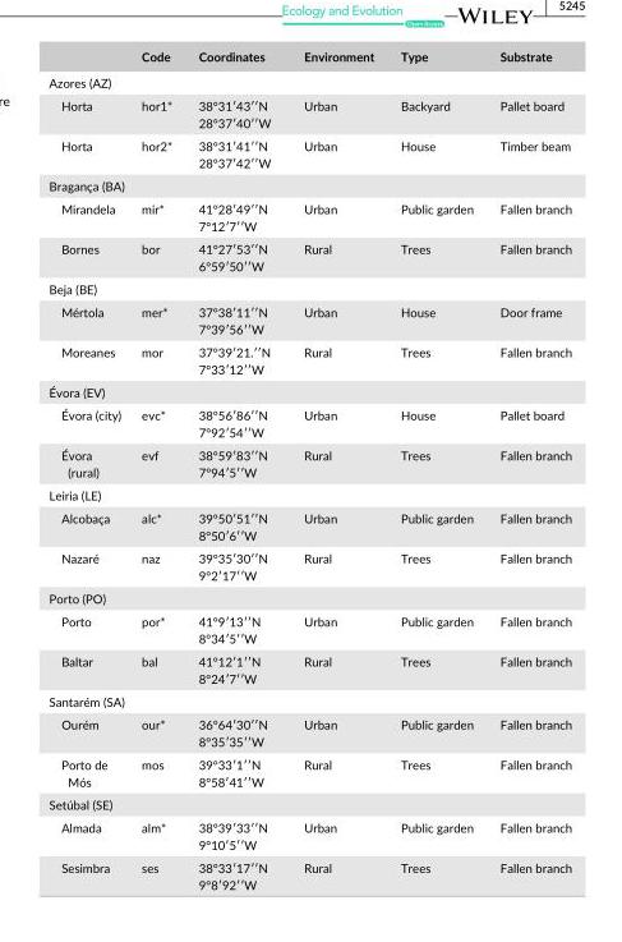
<table><thead><tr><td></td><td>Code</td><td>Coordinates</td><td>Environment</td><td>Type</td><td>Substrate</td></tr></thead><tbody><tr><td colspan="6">Azores (AZ)</td></tr><tr><td>Horta</td><td>hor1*</td><td>38°31′43′′N 28°37′40′′W</td><td>Urban</td><td>Backyard</td><td>Pallet board</td></tr><tr><td>Horta</td><td>hor2*</td><td>38°31′41′′N 28°37′42′′W</td><td>Urban</td><td>House</td><td>Timber beam</td></tr><tr><td colspan="6">Bragança (BA)</td></tr><tr><td>Mirandela</td><td>mir*</td><td>41°28′49′′N 7°12′7′′W</td><td>Urban</td><td>Public garden</td><td>Fallen branch</td></tr><tr><td>Bornes</td><td>bor</td><td>41°27′53′′N 6°59′50′′W</td><td>Rural</td><td>Trees</td><td>Fallen branch</td></tr><tr><td colspan="6">Beja (BE)</td></tr><tr><td>Mértola</td><td>mer*</td><td>37°38′11′′N 7°39′56′′W</td><td>Urban</td><td>House</td><td>Door frame</td></tr><tr><td>Moreanes</td><td>mor</td><td>37°39′21.′′N 7°33′12′′W</td><td>Rural</td><td>Trees</td><td>Fallen branch</td></tr><tr><td colspan="6">Évora (EV)</td></tr><tr><td>Évora (city)</td><td>evc*</td><td>38°56′86′′N 7°92′54′′W</td><td>Urban</td><td>House</td><td>Pallet board</td></tr><tr><td>Évora (rural)</td><td>evf</td><td>38°59′83′′N 7°94′5′′W</td><td>Rural</td><td>Trees</td><td>Fallen branch</td></tr><tr><td colspan="6">Leiria (LE)</td></tr><tr><td>Alcobaça</td><td>alc*</td><td>39°50′51′′N 8°50′6′′W</td><td>Urban</td><td>Public garden</td><td>Fallen branch</td></tr><tr><td>Nazaré</td><td>naz</td><td>39°35′30′′N 9°2′17′′W</td><td>Rural</td><td>Trees</td><td>Fallen branch</td></tr><tr><td colspan="6">Porto (PO)</td></tr><tr><td>Porto</td><td>por*</td><td>41°9′13′′N 8°34′5′′W</td><td>Urban</td><td>Public garden</td><td>Fallen branch</td></tr><tr><td>Baltar</td><td>bal</td><td>41°12′1′′N 8°24′7′′W</td><td>Rural</td><td>Trees</td><td>Fallen branch</td></tr><tr><td colspan="6">Santarém (SA)</td></tr><tr><td>Ourém</td><td>our*</td><td>36°64′30′′N 8°35′35′′W</td><td>Urban</td><td>Public garden</td><td>Fallen branch</td></tr><tr><td>Porto de Mós</td><td>mos</td><td>39°33′1′′N 8°58′41′′W</td><td>Rural</td><td>Trees</td><td>Fallen branch</td></tr><tr><td colspan="6">Setúbal (SE)</td></tr><tr><td>Almada</td><td>alm*</td><td>38°39′33′′N 9°10′5′′W</td><td>Urban</td><td>Public garden</td><td>Fallen branch</td></tr><tr><td>Sesimbra</td><td>ses</td><td>38°33′17′′N 9°8′92′′W</td><td>Rural</td><td>Trees</td><td>Fallen branch</td></tr></tbody></table>